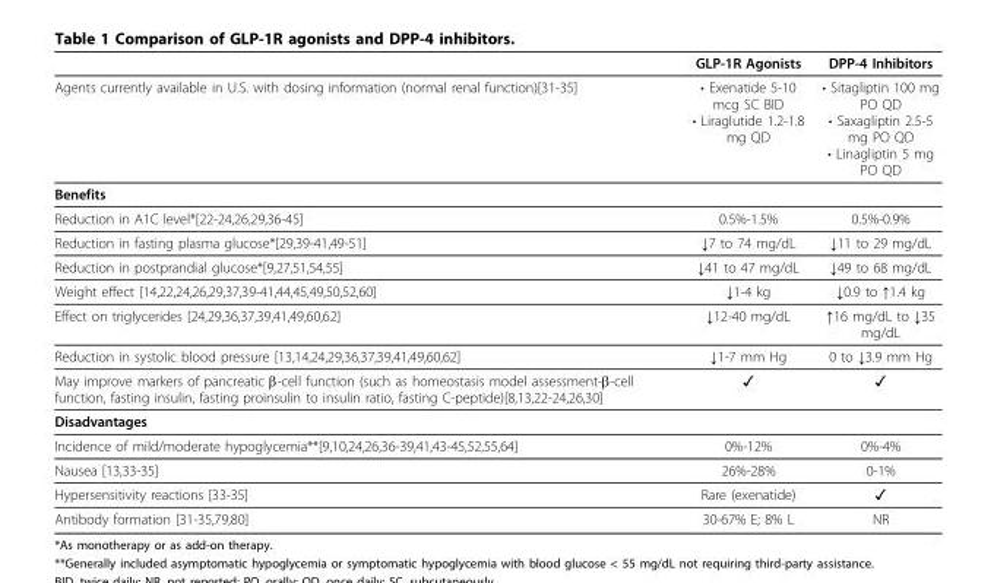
<table><thead><tr><td></td><td>GLP-1R Agonists</td><td>DPP-4 Inhibitors</td></tr></thead><tbody><tr><td>Agents currently available in U.S. with dosing information (normal renal function)[31-35]</td><td>• Exenatide 5-10 mcg SC BID • Liraglutide 1.2-1.8 mg QD</td><td>• Sitagliptin 100 mg PO QD • Saxagliptin 2.5-5 mg PO QD • Linagliptin 5 mg PO QD</td></tr><tr><td colspan="3">Benefits</td></tr><tr><td>Reduction in A1C level*[22-24,26,29,36-45]</td><td>0.5%-1.5%</td><td>0.5%-0.9%</td></tr><tr><td>Reduction in fasting plasma glucose*[29,39-41,49-51]</td><td>↓7 to 74 mg/dL</td><td>↓11 to 29 mg/dL</td></tr><tr><td>Reduction in postprandial glucose*[9,27,51,54,55]</td><td>↓41 to 47 mg/dL</td><td>↓49 to 68 mg/dL</td></tr><tr><td>Weight effect [14,22,24,26,29,37,39-41,44,45,49,50,52,60]</td><td>↓1-4 kg</td><td>↓0.9 to ↑1.4 kg</td></tr><tr><td>Effect on triglycerides [24,29,36,37,39,41,49,60,62]</td><td>↓12-40 mg/dL</td><td>↑16 mg/dL to ↓35 mg/dL</td></tr><tr><td>Reduction in systolic blood pressure [13,14,24,29,36,37,39,41,49,60,62]</td><td>↓1-7 mm Hg</td><td>0 to ↓3.9 mm Hg</td></tr><tr><td>May improve markers of pancreatic β-cell function (such as homeostasis model assessment-β-cell function, fasting insulin, fasting proinsulin to insulin ratio, fasting C-peptide)[8,13,22-24,26,30]</td><td>✓</td><td>✓</td></tr><tr><td colspan="3">Disadvantages</td></tr><tr><td>Incidence of mild/moderate hypoglycemia**[9,10,24,26,36-39,41,43-45,52,55,64]</td><td>0%-12%</td><td>0%-4%</td></tr><tr><td>Nausea [13,33-35]</td><td>26%-28%</td><td>0-1%</td></tr><tr><td>Hypersensitivity reactions [33-35]</td><td>Rare (exenatide)</td><td>✓</td></tr><tr><td>Antibody formation [31-35,79,80]</td><td>30-67% E; 8% L</td><td>NR</td></tr></tbody></table>